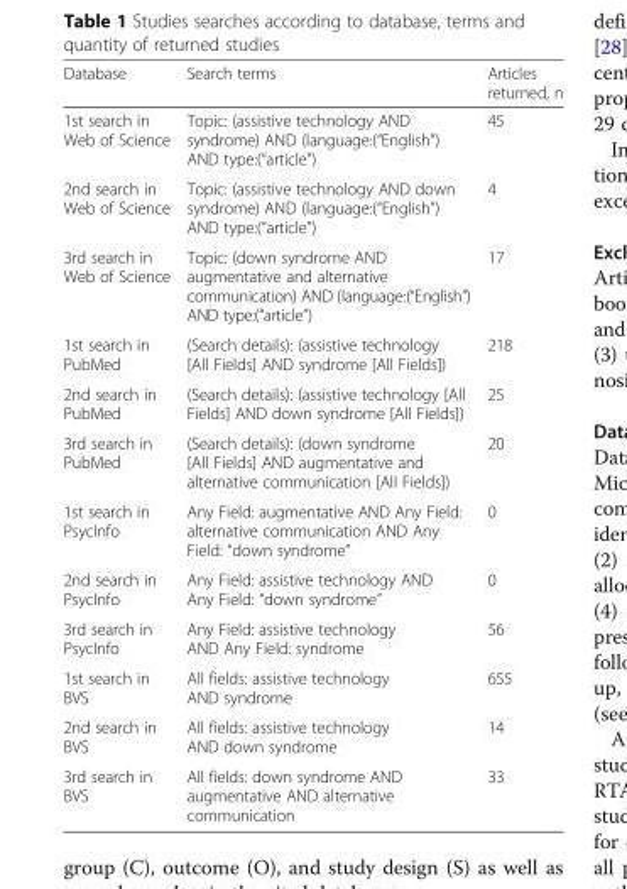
<table><thead><tr><td>Database</td><td>Search terms</td><td>Articles returned, n</td></tr></thead><tbody><tr><td>1st search in Web of Science</td><td>Topic: (assistive technology AND syndrome) AND (language:(“English”) AND type:(“article”)</td><td>45</td></tr><tr><td>2nd search in Web of Science</td><td>Topic: (assistive technology AND down syndrome) AND (language:(“English”) AND type:(“article”)</td><td>4</td></tr><tr><td>3rd search in Web of Science</td><td>Topic: (down syndrome AND augmentative and alternative communication) AND (language:(“English”) AND type:(“article”)</td><td>17</td></tr><tr><td>1st search in PubMed</td><td>(Search details): (assistive technology [All Fields] AND syndrome [All Fields])</td><td>218</td></tr><tr><td>2nd search in PubMed</td><td>(Search details): (assistive technology [All Fields] AND down syndrome [All Fields])</td><td>25</td></tr><tr><td>3rd search in PubMed</td><td>(Search details): (down syndrome [All Fields] AND augmentative and alternative communication [All Fields])</td><td>20</td></tr><tr><td>1st search in PsycInfo</td><td>Any Field: augmentative AND Any Field: alternative communication AND Any Field: “down syndrome”</td><td>0</td></tr><tr><td>2nd search in PsycInfo</td><td>Any Field: assistive technology AND Any Field: “down syndrome”</td><td>0</td></tr><tr><td>3rd search in PsycInfo</td><td>Any Field: assistive technology AND Any Field: syndrome</td><td>56</td></tr><tr><td>1st search in BVS</td><td>All fields: assistive technology AND syndrome</td><td>655</td></tr><tr><td>2nd search in BVS</td><td>All fields: assistive technology AND down syndrome</td><td>14</td></tr><tr><td>3rd search in BVS</td><td>All fields: down syndrome AND augmentative AND alternative communication</td><td>33</td></tr></tbody></table>